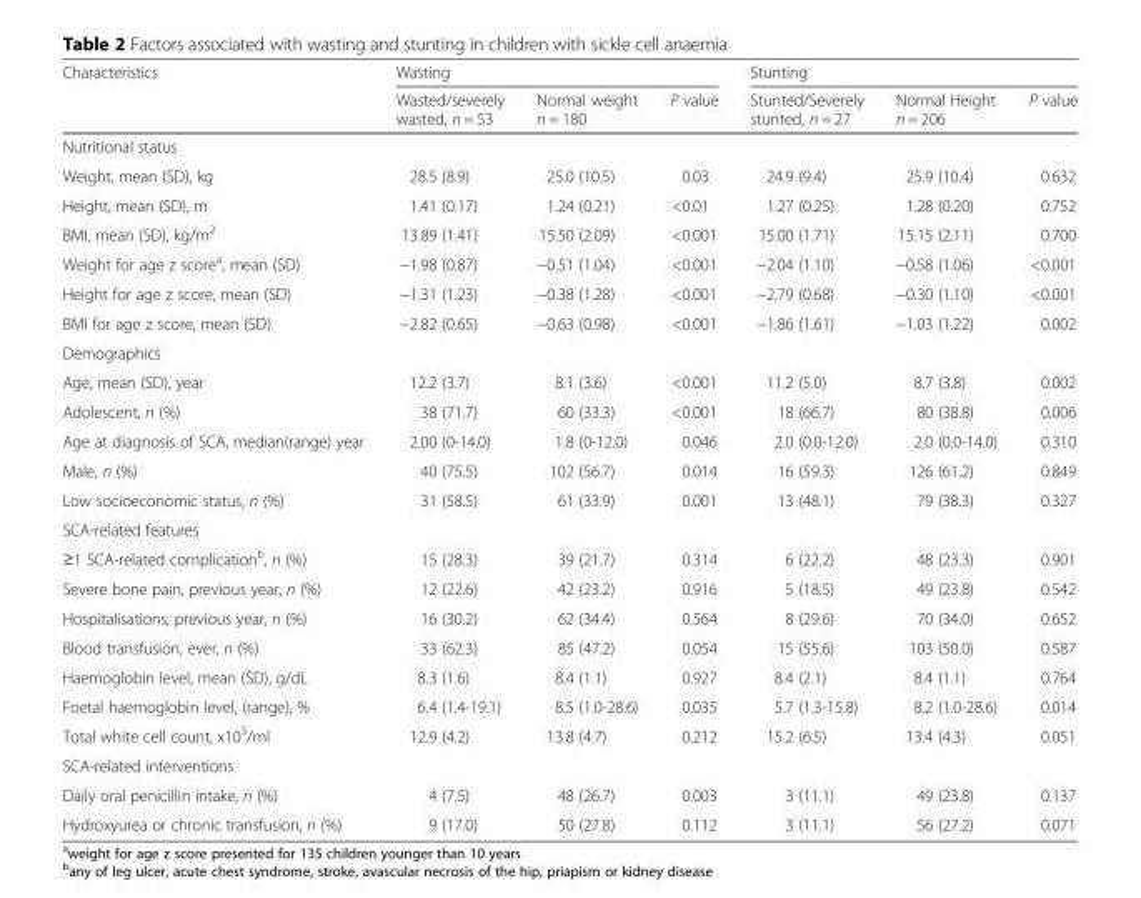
<table><thead><tr><td rowspan="2">Characteristics</td><td colspan="3">Wasting</td><td colspan="3">Stunting</td></tr><tr><td>Wasted/severely wasted, n = 53</td><td>Normal weight n = 180</td><td>P value</td><td>Stunted/Severely stunted, n = 27</td><td>Normal Height n = 206</td><td>P value</td></tr></thead><tbody><tr><td colspan="7">Nutritional status</td></tr><tr><td>Weight, mean (SD), kg</td><td>28.5 (8.9)</td><td>25.0 (10.5)</td><td>0.03</td><td>24.9 (9.4)</td><td>25.9 (10.4)</td><td>0.632</td></tr><tr><td>Height, mean (SD), m</td><td>1.41 (0.17)</td><td>1.24 (0.21)</td><td>&lt;0.01</td><td>1.27 (0.25)</td><td>1.28 (0.20)</td><td>0.752</td></tr><tr><td>BMI, mean (SD), kg/m<sup>2</sup></td><td>13.89 (1.41)</td><td>15.50 (2.09)</td><td>&lt;0.001</td><td>15.00 (1.71)</td><td>15.15 (2.11)</td><td>0.700</td></tr><tr><td>Weight for age z score<sup>a</sup>, mean (SD)</td><td>−1.98 (0.87)</td><td>−0.51 (1.04)</td><td>&lt;0.001</td><td>−2.04 (1.10)</td><td>−0.58 (1.06)</td><td>&lt;0.001</td></tr><tr><td>Height for age z score, mean (SD)</td><td>−1.31 (1.23)</td><td>−0.38 (1.28)</td><td>&lt;0.001</td><td>−2.79 (0.68)</td><td>−0.30 (1.10)</td><td>&lt;0.001</td></tr><tr><td>BMI for age z score, mean (SD)</td><td>−2.82 (0.65)</td><td>−0.63 (0.98)</td><td>&lt;0.001</td><td>−1.86 (1.61)</td><td>−1.03 (1.22)</td><td>0.002</td></tr><tr><td colspan="7">Demographics</td></tr><tr><td>Age, mean (SD), year</td><td>12.2 (3.7)</td><td>8.1 (3.6)</td><td>&lt;0.001</td><td>11.2 (5.0)</td><td>8.7 (3.8)</td><td>0.002</td></tr><tr><td>Adolescent, n (%)</td><td>38 (71.7)</td><td>60 (33.3)</td><td>&lt;0.001</td><td>18 (66.7)</td><td>80 (38.8)</td><td>0.006</td></tr><tr><td>Age at diagnosis of SCA, median(range) year</td><td>2.00 (0-14.0)</td><td>1.8 (0-12.0)</td><td>0.046</td><td>2.0 (0.0-12.0)</td><td>2.0 (0.0-14.0)</td><td>0.310</td></tr><tr><td>Male, n (%)</td><td>40 (75.5)</td><td>102 (56.7)</td><td>0.014</td><td>16 (59.3)</td><td>126 (61.2)</td><td>0.849</td></tr><tr><td>Low socioeconomic status, n (%)</td><td>31 (58.5)</td><td>61 (33.9)</td><td>0.001</td><td>13 (48.1)</td><td>79 (38.3)</td><td>0.327</td></tr><tr><td colspan="7">SCA-related features</td></tr><tr><td>≥1 SCA-related complication<sup>b</sup>, n (%)</td><td>15 (28.3)</td><td>39 (21.7)</td><td>0.314</td><td>6 (22.2)</td><td>48 (23.3)</td><td>0.901</td></tr><tr><td>Severe bone pain, previous year, n (%)</td><td>12 (22.6)</td><td>42 (23.2)</td><td>0.916</td><td>5 (18.5)</td><td>49 (23.8)</td><td>0.542</td></tr><tr><td>Hospitalisations, previous year, n (%)</td><td>16 (30.2)</td><td>62 (34.4)</td><td>0.564</td><td>8 (29.6)</td><td>70 (34.0)</td><td>0.652</td></tr><tr><td>Blood transfusion, ever, n (%)</td><td>33 (62.3)</td><td>85 (47.2)</td><td>0.054</td><td>15 (55.6)</td><td>103 (50.0)</td><td>0.587</td></tr><tr><td>Haemoglobin level, mean (SD), g/dL</td><td>8.3 (1.6)</td><td>8.4 (1.1)</td><td>0.927</td><td>8.4 (2.1)</td><td>8.4 (1.1)</td><td>0.764</td></tr><tr><td>Foetal haemoglobin level, (range), %</td><td>6.4 (1.4-19.1)</td><td>8.5 (1.0-28.6)</td><td>0.035</td><td>5.7 (1.3-15.8)</td><td>8.2 (1.0-28.6)</td><td>0.014</td></tr><tr><td>Total white cell count, x10<sup>3</sup>/ml</td><td>12.9 (4.2)</td><td>13.8 (4.7)</td><td>0.212</td><td>15.2 (6.5)</td><td>13.4 (4.3)</td><td>0.051</td></tr><tr><td colspan="7">SCA-related interventions</td></tr><tr><td>Daily oral penicillin intake, n (%)</td><td>4 (7.5)</td><td>48 (26.7)</td><td>0.003</td><td>3 (11.1)</td><td>49 (23.8)</td><td>0.137</td></tr><tr><td>Hydroxyurea or chronic transfusion, n (%)</td><td>9 (17.0)</td><td>50 (27.8)</td><td>0.112</td><td>3 (11.1)</td><td>56 (27.2)</td><td>0.071</td></tr></tbody></table>